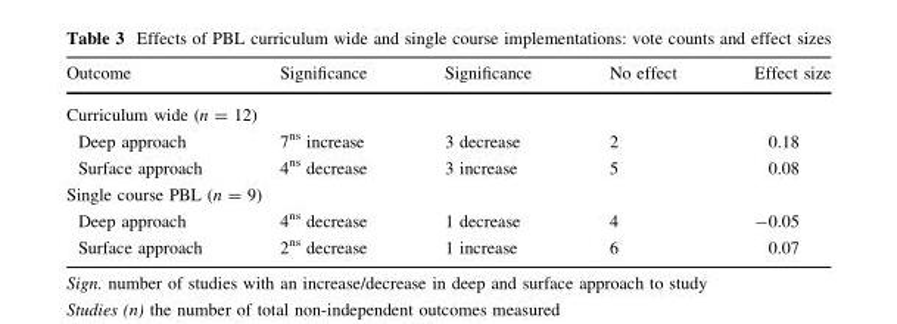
<table><thead><tr><td>Outcome</td><td>Significance</td><td>Significance</td><td>No effect</td><td>Effect size</td></tr></thead><tbody><tr><td colspan="5">Curriculum wide (n = 12)</td></tr><tr><td>Deep approach</td><td>7<sup>ns</sup> increase</td><td>3 decrease</td><td>2</td><td>0.18</td></tr><tr><td>Surface approach</td><td>4<sup>ns</sup> decrease</td><td>3 increase</td><td>5</td><td>0.08</td></tr><tr><td colspan="5">Single course PBL (n = 9)</td></tr><tr><td>Deep approach</td><td>4<sup>ns</sup> decrease</td><td>1 decrease</td><td>4</td><td>-0.05</td></tr><tr><td>Surface approach</td><td>2<sup>ns</sup> decrease</td><td>1 increase</td><td>6</td><td>0.07</td></tr></tbody></table>